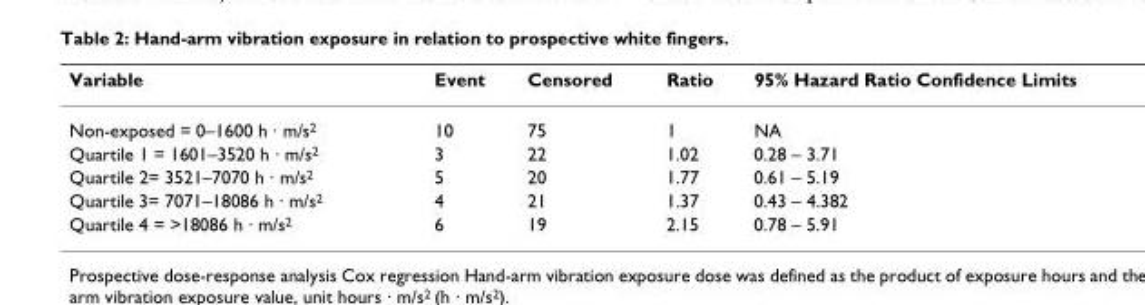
<table><thead><tr><td>Variable</td><td>Event</td><td>Censored</td><td>Ratio</td><td>95% Hazard Ratio Confidence Limits</td></tr></thead><tbody><tr><td>Non-exposed = 0–1600 h · m/s<sup>2</sup></td><td>10</td><td>75</td><td>1</td><td>NA</td></tr><tr><td>Quartile 1 = 1601–3520 h · m/s<sup>2</sup></td><td>3</td><td>22</td><td>1.02</td><td>0.28 – 3.71</td></tr><tr><td>Quartile 2= 3521–7070 h · m/s<sup>2</sup></td><td>5</td><td>20</td><td>1.77</td><td>0.61 – 5.19</td></tr><tr><td>Quartile 3= 7071–18086 h · m/s<sup>2</sup></td><td>4</td><td>21</td><td>1.37</td><td>0.43 – 4.382</td></tr><tr><td>Quartile 4 = &gt;18086 h · m/s<sup>2</sup></td><td>6</td><td>19</td><td>2.15</td><td>0.78 – 5.91</td></tr></tbody></table>